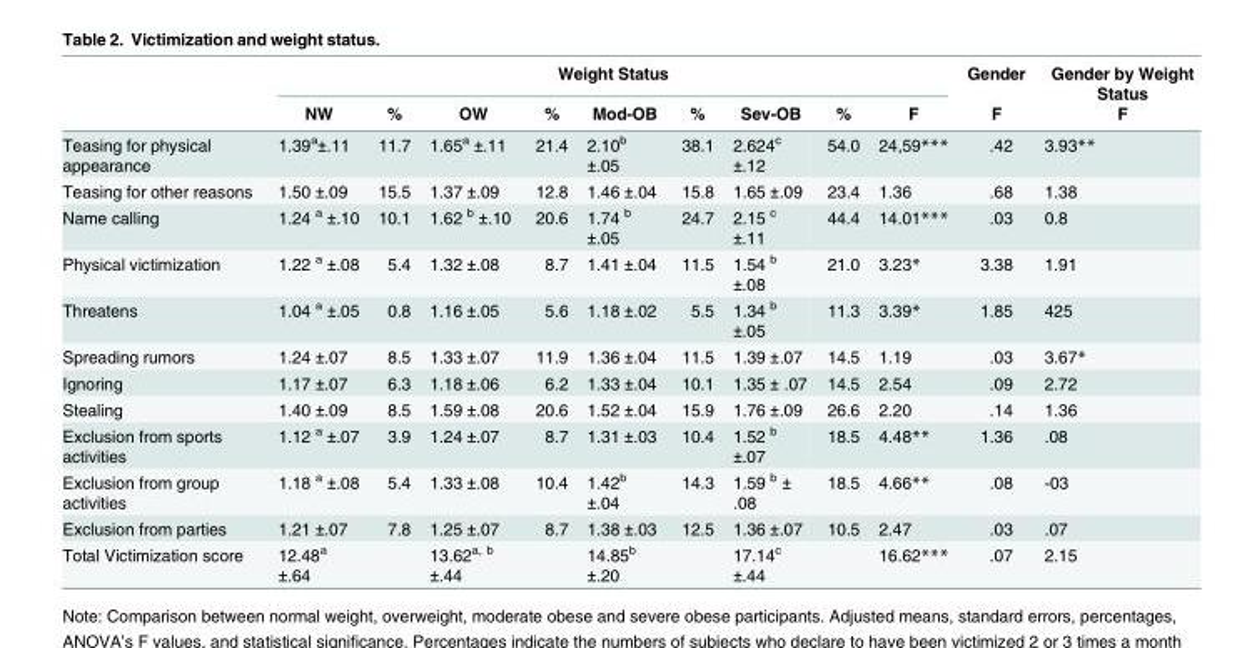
<table><thead><tr><td rowspan="2"></td><td colspan="9">Weight Status</td><td rowspan="2">Gender F</td><td rowspan="2">Gender by Weight Status F</td></tr><tr><td>NW</td><td>%</td><td>OW</td><td>%</td><td>Mod-OB</td><td>%</td><td>Sev-OB</td><td>%</td><td>F</td></tr></thead><tbody><tr><td>Teasing for physical appearance</td><td>1.39<sup>a</sup>±.11</td><td>11.7</td><td>1.65<sup>a</sup> ±.11</td><td>21.4</td><td>2.10<sup>b</sup> ±.05</td><td>38.1</td><td>2.624<sup>c</sup> ±.12</td><td>54.0</td><td>24,59***</td><td>.42</td><td>3.93**</td></tr><tr><td>Teasing for other reasons</td><td>1.50 ±.09</td><td>15.5</td><td>1.37 ±.09</td><td>12.8</td><td>1.46 ±.04</td><td>15.8</td><td>1.65 ±.09</td><td>23.4</td><td>1.36</td><td>.68</td><td>1.38</td></tr><tr><td>Name calling</td><td>1.24 <sup>a</sup> ±.10</td><td>10.1</td><td>1.62 <sup>b</sup> ±.10</td><td>20.6</td><td>1.74 <sup>b</sup> ±.05</td><td>24.7</td><td>2.15 <sup>c</sup> ±.11</td><td>44.4</td><td>14.01***</td><td>.03</td><td>0.8</td></tr><tr><td>Physical victimization</td><td>1.22 <sup>a</sup> ±.08</td><td>5.4</td><td>1.32 ±.08</td><td>8.7</td><td>1.41 ±.04</td><td>11.5</td><td>1.54 <sup>b</sup> ±.08</td><td>21.0</td><td>3.23*</td><td>3.38</td><td>1.91</td></tr><tr><td>Threatens</td><td>1.04 <sup>a</sup> ±.05</td><td>0.8</td><td>1.16 ±.05</td><td>5.6</td><td>1.18 ±.02</td><td>5.5</td><td>1.34 <sup>b</sup> ±.05</td><td>11.3</td><td>3.39*</td><td>1.85</td><td>425</td></tr><tr><td>Spreading rumors</td><td>1.24 ±.07</td><td>8.5</td><td>1.33 ±.07</td><td>11.9</td><td>1.36 ±.04</td><td>11.5</td><td>1.39 ±.07</td><td>14.5</td><td>1.19</td><td>.03</td><td>3.67*</td></tr><tr><td>Ignoring</td><td>1.17 ±.07</td><td>6.3</td><td>1.18 ±.06</td><td>6.2</td><td>1.33 ±.04</td><td>10.1</td><td>1.35 ± .07</td><td>14.5</td><td>2.54</td><td>.09</td><td>2.72</td></tr><tr><td>Stealing</td><td>1.40 ±.09</td><td>8.5</td><td>1.59 ±.08</td><td>20.6</td><td>1.52 ±.04</td><td>15.9</td><td>1.76 ±.09</td><td>26.6</td><td>2.20</td><td>.14</td><td>1.36</td></tr><tr><td>Exclusion from sports activities</td><td>1.12 <sup>a</sup> ±.07</td><td>3.9</td><td>1.24 ±.07</td><td>8.7</td><td>1.31 ±.03</td><td>10.4</td><td>1.52 <sup>b</sup> ±.07</td><td>18.5</td><td>4.48**</td><td>1.36</td><td>.08</td></tr><tr><td>Exclusion from group activities</td><td>1.18 <sup>a</sup> ±.08</td><td>5.4</td><td>1.33 ±.08</td><td>10.4</td><td>1.42<sup>b</sup> ±.04</td><td>14.3</td><td>1.59 <sup>b</sup> ± .08</td><td>18.5</td><td>4.66**</td><td>.08</td><td>-03</td></tr><tr><td>Exclusion from parties</td><td>1.21 ±.07</td><td>7.8</td><td>1.25 ±.07</td><td>8.7</td><td>1.38 ±.03</td><td>12.5</td><td>1.36 ±.07</td><td>10.5</td><td>2.47</td><td>.03</td><td>.07</td></tr><tr><td>Total Victimization score</td><td>12.48<sup>a</sup> ±.64</td><td></td><td>13.62<sup>a, b</sup> ±.44</td><td></td><td>14.85<sup>b</sup> ±.20</td><td></td><td>17.14<sup>c</sup> ±.44</td><td></td><td>16.62***</td><td>.07</td><td>2.15</td></tr></tbody></table>